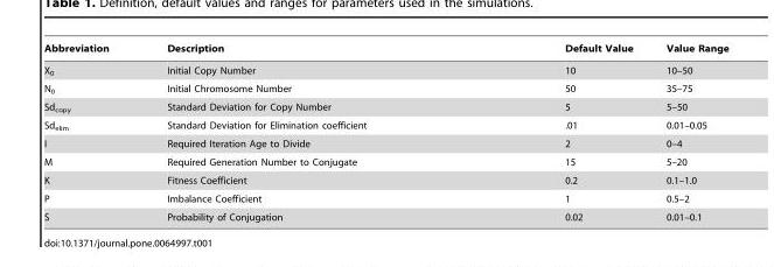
<table><thead><tr><td>Abbreviation</td><td>Description</td><td>Default Value</td><td>Value Range</td></tr></thead><tbody><tr><td>X<sub>0</sub></td><td>Initial Copy Number</td><td>10</td><td>10–50</td></tr><tr><td>N<sub>0</sub></td><td>Initial Chromosome Number</td><td>50</td><td>35–75</td></tr><tr><td>Sd<sub>copy</sub></td><td>Standard Deviation for Copy Number</td><td>5</td><td>5–50</td></tr><tr><td>Sd<sub>elim</sub></td><td>Standard Deviation for Elimination coefficient</td><td>.01</td><td>0.01–0.05</td></tr><tr><td>I</td><td>Required Iteration Age to Divide</td><td>2</td><td>0–4</td></tr><tr><td>M</td><td>Required Generation Number to Conjugate</td><td>15</td><td>5–20</td></tr><tr><td>K</td><td>Fitness Coefficient</td><td>0.2</td><td>0.1–1.0</td></tr><tr><td>P</td><td>Imbalance Coefficient</td><td>1</td><td>0.5–2</td></tr><tr><td>S</td><td>Probability of Conjugation</td><td>0.02</td><td>0.01–0.1</td></tr></tbody></table>